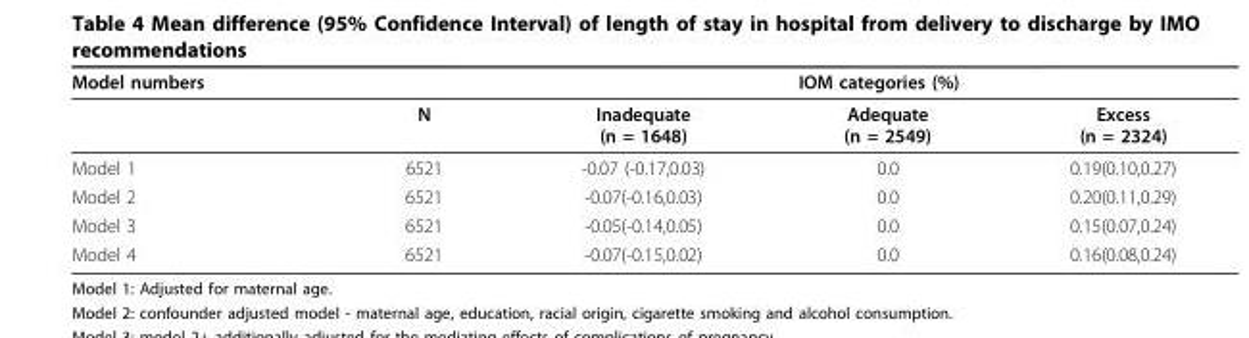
<table><thead><tr><td rowspan="2">Model numbers</td><td rowspan="2">N</td><td colspan="3">IOM categories (%)</td></tr><tr><td>Inadequate (n = 1648)</td><td>Adequate (n = 2549)</td><td>Excess (n = 2324)</td></tr></thead><tbody><tr><td>Model 1</td><td>6521</td><td>-0.07 (-0.17,0.03)</td><td>0.0</td><td>0.19(0.10,0.27)</td></tr><tr><td>Model 2</td><td>6521</td><td>-0.07(-0.16,0.03)</td><td>0.0</td><td>0.20(0.11,0.29)</td></tr><tr><td>Model 3</td><td>6521</td><td>-0.05(-0.14,0.05)</td><td>0.0</td><td>0.15(0.07,0.24)</td></tr><tr><td>Model 4</td><td>6521</td><td>-0.07(-0.15,0.02)</td><td>0.0</td><td>0.16(0.08,0.24)</td></tr></tbody></table>